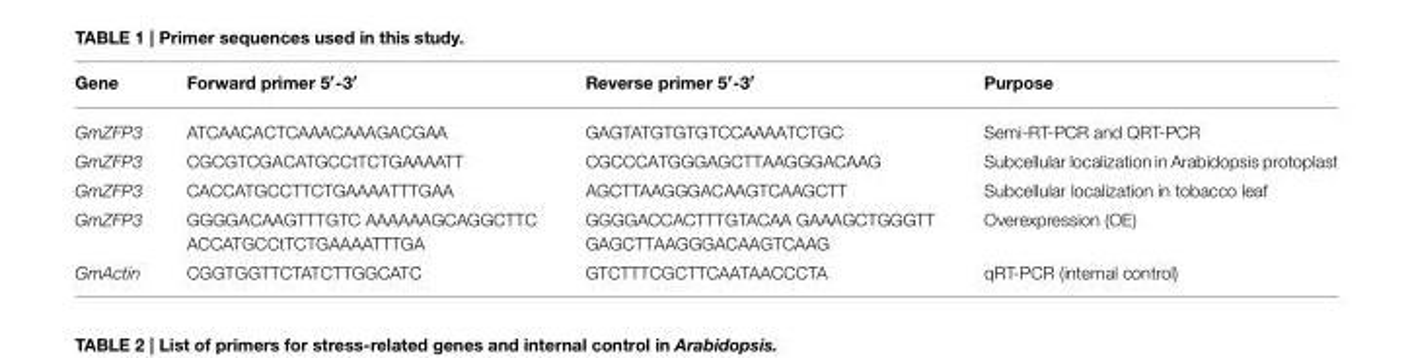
<table><thead><tr><td>Gene</td><td>Forward primer 5′-3′</td><td>Reverse primer 5′-3′</td><td>Purpose</td></tr></thead><tbody><tr><td>GmZFP3</td><td>ATCAACACTCAAACAAAGACGAA</td><td>GAGTATGTGTGTCCAAAATCTGC</td><td>Semi-RT-PCR and QRT-PCR</td></tr><tr><td>GmZFP3</td><td>CGCGTCGACATGCCtTCTGAAAATT</td><td>CGCCCATGGGAGCTTAAGGGACAAG</td><td>Subcellular localization in Arabidopsis protoplast</td></tr><tr><td>GmZFP3</td><td>CACCATGCCTTCTGAAAATTTGAA</td><td>AGCTTAAGGGACAAGTCAAGCTT</td><td>Subcellular localization in tobacco leaf</td></tr><tr><td>GmZFP3</td><td>GGGGACAAGTTTGTC AAAAAAGCAGGCTTC ACCATGCCtTCTGAAAATTTGA</td><td>GGGGACCACTTTGTACAA GAAAGCTGGGTT GAGCTTAAGGGACAAGTCAAG</td><td>Overexpression (OE)</td></tr><tr><td>GmActin</td><td>CGGTGGTTCTATCTTGGCATC</td><td>GTCTTTCGCTTCAATAACCCTA</td><td>qRT-PCR (internal control)</td></tr></tbody></table>